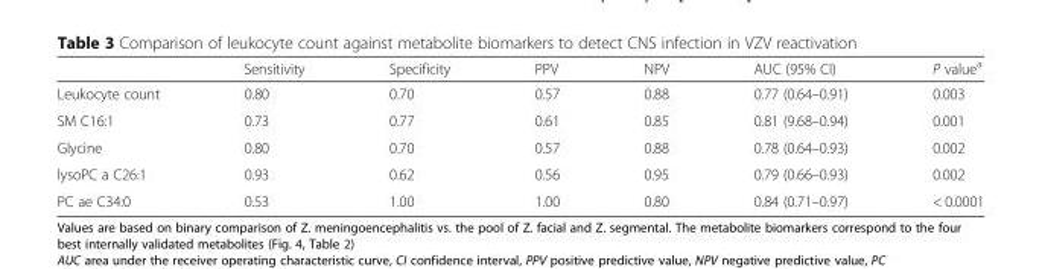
<table><thead><tr><td></td><td>Sensitivity</td><td>Specificity</td><td>PPV</td><td>NPV</td><td>AUC (95% CI)</td><td>P value<sup>a</sup></td></tr></thead><tbody><tr><td>Leukocyte count</td><td>0.80</td><td>0.70</td><td>0.57</td><td>0.88</td><td>0.77 (0.64–0.91)</td><td>0.003</td></tr><tr><td>SM C16:1</td><td>0.73</td><td>0.77</td><td>0.61</td><td>0.85</td><td>0.81 (9.68–0.94)</td><td>0.001</td></tr><tr><td>Glycine</td><td>0.80</td><td>0.70</td><td>0.57</td><td>0.88</td><td>0.78 (0.64–0.93)</td><td>0.002</td></tr><tr><td>lysoPC a C26:1</td><td>0.93</td><td>0.62</td><td>0.56</td><td>0.95</td><td>0.79 (0.66–0.93)</td><td>0.002</td></tr><tr><td>PC ae C34:0</td><td>0.53</td><td>1.00</td><td>1.00</td><td>0.80</td><td>0.84 (0.71–0.97)</td><td>&lt; 0.0001</td></tr></tbody></table>